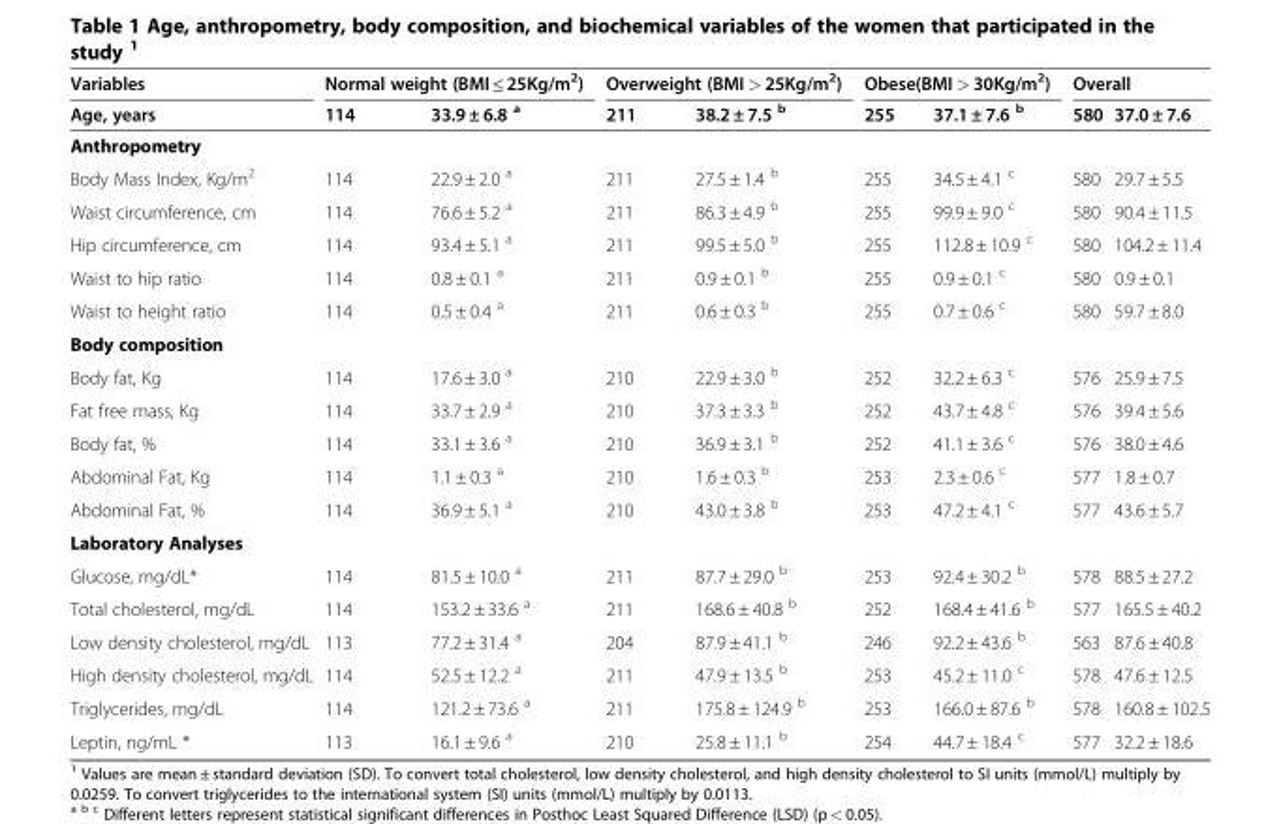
<table><thead><tr><td rowspan="2">Variables Age, years</td><td colspan="2">Normal weight (BMI ≤ 25Kg/m<sup>2</sup>)</td><td colspan="2">Overweight (BMI &gt; 25Kg/m<sup>2</sup>)</td><td colspan="2">Obese(BMI &gt; 30Kg/m<sup>2</sup>)</td><td colspan="2">Overall</td></tr><tr><td>114</td><td>33.9 ± 6.8 <sup>a</sup></td><td>211</td><td>38.2 ± 7.5 <sup>b</sup></td><td>255</td><td>37.1 ± 7.6 <sup>b</sup></td><td>580</td><td>37.0 ± 7.6</td></tr></thead><tbody><tr><td colspan="9">Anthropometry</td></tr><tr><td>Body Mass Index, Kg/m<sup>2</sup></td><td>114</td><td>22.9 ± 2.0 <sup>a</sup></td><td>211</td><td>27.5 ± 1.4 <sup>b</sup></td><td>255</td><td>34.5 ± 4.1 <sup>c</sup></td><td>580</td><td>29.7 ± 5.5</td></tr><tr><td>Waist circumference, cm</td><td>114</td><td>76.6 ± 5.2 <sup>a</sup></td><td>211</td><td>86.3 ± 4.9 <sup>b</sup></td><td>255</td><td>99.9 ± 9.0 <sup>c</sup></td><td>580</td><td>90.4 ± 11.5</td></tr><tr><td>Hip circumference, cm</td><td>114</td><td>93.4 ± 5.1 <sup>a</sup></td><td>211</td><td>99.5 ± 5.0 <sup>b</sup></td><td>255</td><td>112.8 ± 10.9 <sup>c</sup></td><td>580</td><td>104.2 ± 11.4</td></tr><tr><td>Waist to hip ratio</td><td>114</td><td>0.8 ± 0.1 <sup>a</sup></td><td>211</td><td>0.9 ± 0.1 <sup>b</sup></td><td>255</td><td>0.9 ± 0.1 <sup>c</sup></td><td>580</td><td>0.9 ± 0.1</td></tr><tr><td>Waist to height ratio</td><td>114</td><td>0.5 ± 0.4 <sup>a</sup></td><td>211</td><td>0.6 ± 0.3 <sup>b</sup></td><td>255</td><td>0.7 ± 0.6 <sup>c</sup></td><td>580</td><td>59.7 ± 8.0</td></tr><tr><td colspan="9">Body composition</td></tr><tr><td>Body fat, Kg</td><td>114</td><td>17.6 ± 3.0 <sup>a</sup></td><td>210</td><td>22.9 ± 3.0 <sup>b</sup></td><td>252</td><td>32.2 ± 6.3 <sup>c</sup></td><td>576</td><td>25.9 ± 7.5</td></tr><tr><td>Fat free mass, Kg</td><td>114</td><td>33.7 ± 2.9 <sup>a</sup></td><td>210</td><td>37.3 ± 3.3 <sup>b</sup></td><td>252</td><td>43.7 ± 4.8 <sup>c</sup></td><td>576</td><td>39.4 ± 5.6</td></tr><tr><td>Body fat, %</td><td>114</td><td>33.1 ± 3.6 <sup>a</sup></td><td>210</td><td>36.9 ± 3.1 <sup>b</sup></td><td>252</td><td>41.1 ± 3.6 <sup>c</sup></td><td>576</td><td>38.0 ± 4.6</td></tr><tr><td>Abdominal Fat, Kg</td><td>114</td><td>1.1 ± 0.3 <sup>a</sup></td><td>210</td><td>1.6 ± 0.3 <sup>b</sup></td><td>253</td><td>2.3 ± 0.6 <sup>c</sup></td><td>577</td><td>1.8 ± 0.7</td></tr><tr><td>Abdominal Fat, %</td><td>114</td><td>36.9 ± 5.1 <sup>a</sup></td><td>210</td><td>43.0 ± 3.8 <sup>b</sup></td><td>253</td><td>47.2 ± 4.1 <sup>c</sup></td><td>577</td><td>43.6 ± 5.7</td></tr><tr><td colspan="9">Laboratory Analyses</td></tr><tr><td>Glucose, mg/dL*</td><td>114</td><td>81.5 ± 10.0 <sup>a</sup></td><td>211</td><td>87.7 ± 29.0 <sup>b</sup></td><td>253</td><td>92.4 ± 30.2 <sup>b</sup></td><td>578</td><td>88.5 ± 27.2</td></tr><tr><td>Total cholesterol, mg/dL</td><td>114</td><td>153.2 ± 33.6 <sup>a</sup></td><td>211</td><td>168.6 ± 40.8 <sup>b</sup></td><td>252</td><td>168.4 ± 41.6 <sup>b</sup></td><td>577</td><td>165.5 ± 40.2</td></tr><tr><td>Low density cholesterol, mg/dL</td><td>113</td><td>77.2 ± 31.4 <sup>a</sup></td><td>204</td><td>87.9 ± 41.1 <sup>b</sup></td><td>246</td><td>92.2 ± 43.6 <sup>b</sup></td><td>563</td><td>87.6 ± 40.8</td></tr><tr><td>High density cholesterol, mg/dL</td><td>114</td><td>52.5 ± 12.2 <sup>a</sup></td><td>211</td><td>47.9 ± 13.5 <sup>b</sup></td><td>253</td><td>45.2 ± 11.0 <sup>c</sup></td><td>578</td><td>47.6 ± 12.5</td></tr><tr><td>Triglycerides, mg/dL</td><td>114</td><td>121.2 ± 73.6 <sup>a</sup></td><td>211</td><td>175.8 ± 124.9 <sup>b</sup></td><td>253</td><td>166.0 ± 87.6 <sup>b</sup></td><td>578</td><td>160.8 ± 102.5</td></tr><tr><td>Leptin, ng/mL *</td><td>113</td><td>16.1 ± 9.6 <sup>a</sup></td><td>210</td><td>25.8 ± 11.1 <sup>b</sup></td><td>254</td><td>44.7 ± 18.4 <sup>c</sup></td><td>577</td><td>32.2 ± 18.6</td></tr></tbody></table>